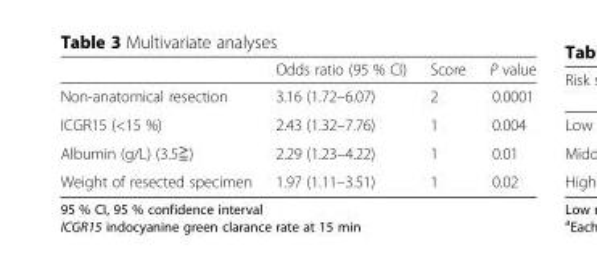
<table><thead><tr><td></td><td>Odds ratio (95 % CI)</td><td>Score</td><td>P value</td></tr></thead><tbody><tr><td>Non-anatomical resection</td><td>3.16 (1.72–6.07)</td><td>2</td><td>0.0001</td></tr><tr><td>ICGR15 (&lt;15 %)</td><td>2.43 (1.32–7.76)</td><td>1</td><td>0.004</td></tr><tr><td>Albumin (g/L) (3.5≧)</td><td>2.29 (1.23–4.22)</td><td>1</td><td>0.01</td></tr><tr><td>Weight of resected specimen</td><td>1.97 (1.11–3.51)</td><td>1</td><td>0.02</td></tr></tbody></table>